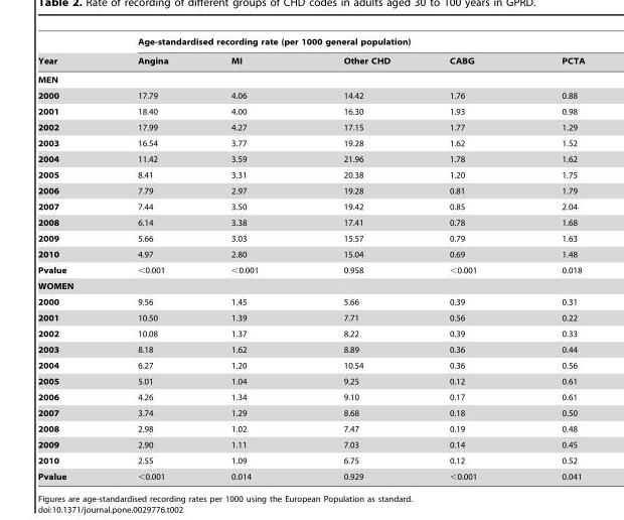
<table><thead><tr><td rowspan="2">Year</td><td colspan="5">Age-standardised recording rate (per 1000 general population)</td></tr><tr><td>Angina</td><td>MI</td><td>Other CHD</td><td>CABG</td><td>PCTA</td></tr></thead><tbody><tr><td colspan="6">MEN</td></tr><tr><td>2000</td><td>17.79</td><td>4.06</td><td>14.42</td><td>1.76</td><td>0.88</td></tr><tr><td>2001</td><td>18.40</td><td>4.00</td><td>16.30</td><td>1.93</td><td>0.98</td></tr><tr><td>2002</td><td>17.99</td><td>4.27</td><td>17.15</td><td>1.77</td><td>1.29</td></tr><tr><td>2003</td><td>16.54</td><td>3.77</td><td>19.28</td><td>1.62</td><td>1.52</td></tr><tr><td>2004</td><td>11.42</td><td>3.59</td><td>21.96</td><td>1.78</td><td>1.62</td></tr><tr><td>2005</td><td>8.41</td><td>3.31</td><td>20.38</td><td>1.20</td><td>1.75</td></tr><tr><td>2006</td><td>7.79</td><td>2.97</td><td>19.28</td><td>0.81</td><td>1.79</td></tr><tr><td>2007</td><td>7.44</td><td>3.50</td><td>19.42</td><td>0.85</td><td>2.04</td></tr><tr><td>2008</td><td>6.14</td><td>3.38</td><td>17.41</td><td>0.78</td><td>1.68</td></tr><tr><td>2009</td><td>5.66</td><td>3.03</td><td>15.57</td><td>0.79</td><td>1.63</td></tr><tr><td>2010</td><td>4.97</td><td>2.80</td><td>15.04</td><td>0.69</td><td>1.48</td></tr><tr><td>Pvalue</td><td>&lt;0.001</td><td>&lt;0.001</td><td>0.958</td><td>&lt;0.001</td><td>0.018</td></tr><tr><td colspan="6">WOMEN</td></tr><tr><td>2000</td><td>9.56</td><td>1.45</td><td>5.66</td><td>0.39</td><td>0.31</td></tr><tr><td>2001</td><td>10.50</td><td>1.39</td><td>7.71</td><td>0.56</td><td>0.22</td></tr><tr><td>2002</td><td>10.08</td><td>1.37</td><td>8.22</td><td>0.39</td><td>0.33</td></tr><tr><td>2003</td><td>8.18</td><td>1.62</td><td>8.89</td><td>0.36</td><td>0.44</td></tr><tr><td>2004</td><td>6.27</td><td>1.20</td><td>10.54</td><td>0.36</td><td>0.56</td></tr><tr><td>2005</td><td>5.01</td><td>1.04</td><td>9.25</td><td>0.12</td><td>0.61</td></tr><tr><td>2006</td><td>4.26</td><td>1.34</td><td>9.10</td><td>0.17</td><td>0.61</td></tr><tr><td>2007</td><td>3.74</td><td>1.29</td><td>8.68</td><td>0.18</td><td>0.50</td></tr><tr><td>2008</td><td>2.98</td><td>1.02</td><td>7.47</td><td>0.19</td><td>0.48</td></tr><tr><td>2009</td><td>2.90</td><td>1.11</td><td>7.03</td><td>0.14</td><td>0.45</td></tr><tr><td>2010</td><td>2.55</td><td>1.09</td><td>6.75</td><td>0.12</td><td>0.52</td></tr><tr><td>Pvalue</td><td>&lt;0.001</td><td>0.014</td><td>0.929</td><td>&lt;0.001</td><td>0.041</td></tr></tbody></table>